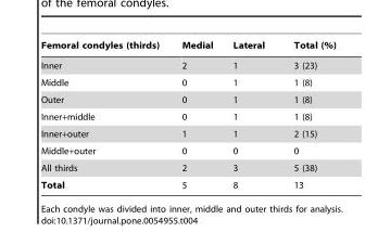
<table><thead><tr><td>Femoral condyles (thirds)</td><td>Medial</td><td>Lateral</td><td>Total (%)</td></tr></thead><tbody><tr><td>Inner</td><td>2</td><td>1</td><td>3 (23)</td></tr><tr><td>Middle</td><td>0</td><td>1</td><td>1 (8)</td></tr><tr><td>Outer</td><td>0</td><td>1</td><td>1 (8)</td></tr><tr><td>Inner+middle</td><td>0</td><td>1</td><td>1 (8)</td></tr><tr><td>Inner+outer</td><td>1</td><td>1</td><td>2 (15)</td></tr><tr><td>Middle+outer</td><td>0</td><td>0</td><td>0</td></tr><tr><td>All thirds</td><td>2</td><td>3</td><td>5 (38)</td></tr><tr><td>Total</td><td>5</td><td>8</td><td>13</td></tr></tbody></table>